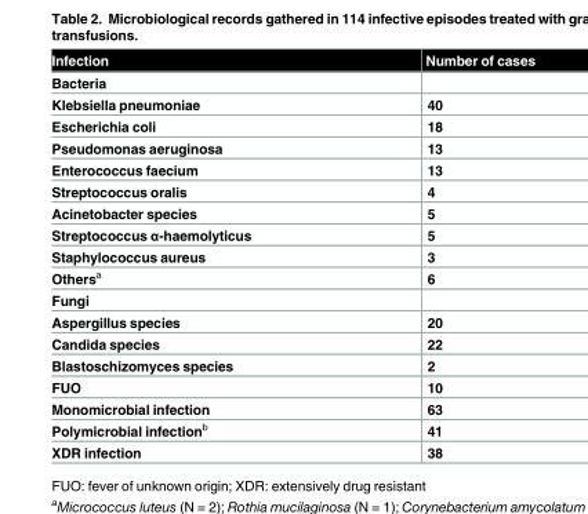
<table><thead><tr><td>Infection</td><td>Number of cases</td></tr></thead><tbody><tr><td colspan="2">Bacteria</td></tr><tr><td>Klebsiella pneumoniae</td><td>40</td></tr><tr><td>Escherichia coli</td><td>18</td></tr><tr><td>Pseudomonas aeruginosa</td><td>13</td></tr><tr><td>Enterococcus faecium</td><td>13</td></tr><tr><td>Streptococcus oralis</td><td>4</td></tr><tr><td>Acinetobacter species</td><td>5</td></tr><tr><td>Streptococcus α-haemolyticus</td><td>5</td></tr><tr><td>Staphylococcus aureus</td><td>3</td></tr><tr><td>Others<sup>a</sup></td><td>6</td></tr><tr><td colspan="2">Fungi</td></tr><tr><td>Aspergillus species</td><td>20</td></tr><tr><td>Candida species</td><td>22</td></tr><tr><td>Blastoschizomyces species</td><td>2</td></tr><tr><td>FUO</td><td>10</td></tr><tr><td>Monomicrobial infection</td><td>63</td></tr><tr><td>Polymicrobial infection<sup>b</sup></td><td>41</td></tr><tr><td>XDR infection</td><td>38</td></tr></tbody></table>